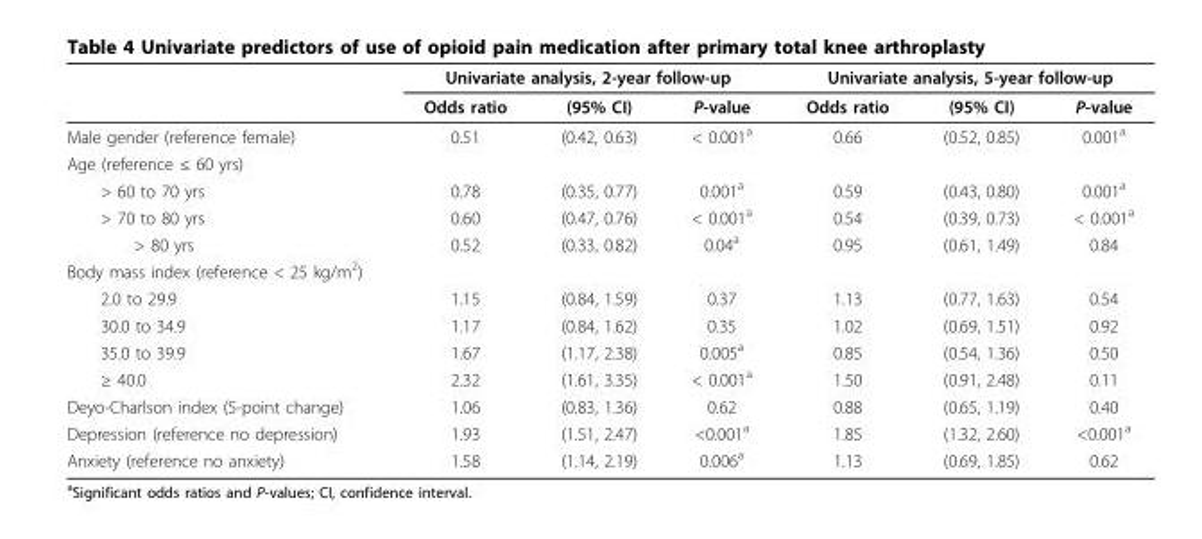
<table><thead><tr><td rowspan="2"></td><td colspan="3">Univariate analysis, 2-year follow-up</td><td colspan="3">Univariate analysis, 5-year follow-up</td></tr><tr><td>Odds ratio</td><td>(95% CI)</td><td>P-value</td><td>Odds ratio</td><td>(95% CI)</td><td>P-value</td></tr></thead><tbody><tr><td>Male gender (reference female)</td><td>0.51</td><td>(0.42, 0.63)</td><td>&lt; 0.001<sup>a</sup></td><td>0.66</td><td>(0.52, 0.85)</td><td>0.001<sup>a</sup></td></tr><tr><td colspan="7">Age (reference ≤ 60 yrs)</td></tr><tr><td>&gt; 60 to 70 yrs</td><td>0.78</td><td>(0.35, 0.77)</td><td>0.001<sup>a</sup></td><td>0.59</td><td>(0.43, 0.80)</td><td>0.001<sup>a</sup></td></tr><tr><td>&gt; 70 to 80 yrs</td><td>0.60</td><td>(0.47, 0.76)</td><td>&lt; 0.001<sup>a</sup></td><td>0.54</td><td>(0.39, 0.73)</td><td>&lt; 0.001<sup>a</sup></td></tr><tr><td>&gt; 80 yrs</td><td>0.52</td><td>(0.33, 0.82)</td><td>0.04<sup>a</sup></td><td>0.95</td><td>(0.61, 1.49)</td><td>0.84</td></tr><tr><td colspan="7">Body mass index (reference &lt; 25 kg/m<sup>2</sup>)</td></tr><tr><td>2.0 to 29.9</td><td>1.15</td><td>(0.84, 1.59)</td><td>0.37</td><td>1.13</td><td>(0.77, 1.63)</td><td>0.54</td></tr><tr><td>30.0 to 34.9</td><td>1.17</td><td>(0.84, 1.62)</td><td>0.35</td><td>1.02</td><td>(0.69, 1.51)</td><td>0.92</td></tr><tr><td>35.0 to 39.9</td><td>1.67</td><td>(1.17, 2.38)</td><td>0.005<sup>a</sup></td><td>0.85</td><td>(0.54, 1.36)</td><td>0.50</td></tr><tr><td>≥ 40.0</td><td>2.32</td><td>(1.61, 3.35)</td><td>&lt; 0.001<sup>a</sup></td><td>1.50</td><td>(0.91, 2.48)</td><td>0.11</td></tr><tr><td>Deyo-Charlson index (5-point change)</td><td>1.06</td><td>(0.83, 1.36)</td><td>0.62</td><td>0.88</td><td>(0.65, 1.19)</td><td>0.40</td></tr><tr><td>Depression (reference no depression)</td><td>1.93</td><td>(1.51, 2.47)</td><td>&lt;0.001<sup>a</sup></td><td>1.85</td><td>(1.32, 2.60)</td><td>&lt;0.001<sup>a</sup></td></tr><tr><td>Anxiety (reference no anxiety)</td><td>1.58</td><td>(1.14, 2.19)</td><td>0.006<sup>a</sup></td><td>1.13</td><td>(0.69, 1.85)</td><td>0.62</td></tr></tbody></table>